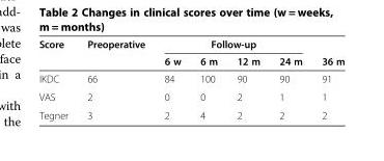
<table><thead><tr><td rowspan="2">Score</td><td rowspan="2">Preoperative</td><td colspan="4">Follow-up</td><td rowspan="2">36 m</td></tr><tr><td>6 w</td><td>6 m</td><td>12 m</td><td>24 m</td></tr></thead><tbody><tr><td>IKDC</td><td>66</td><td>84</td><td>100</td><td>90</td><td>90</td><td>91</td></tr><tr><td>VAS</td><td>2</td><td>0</td><td>0</td><td>2</td><td>1</td><td>1</td></tr><tr><td>Tegner</td><td>3</td><td>2</td><td>4</td><td>2</td><td>2</td><td>2</td></tr></tbody></table>